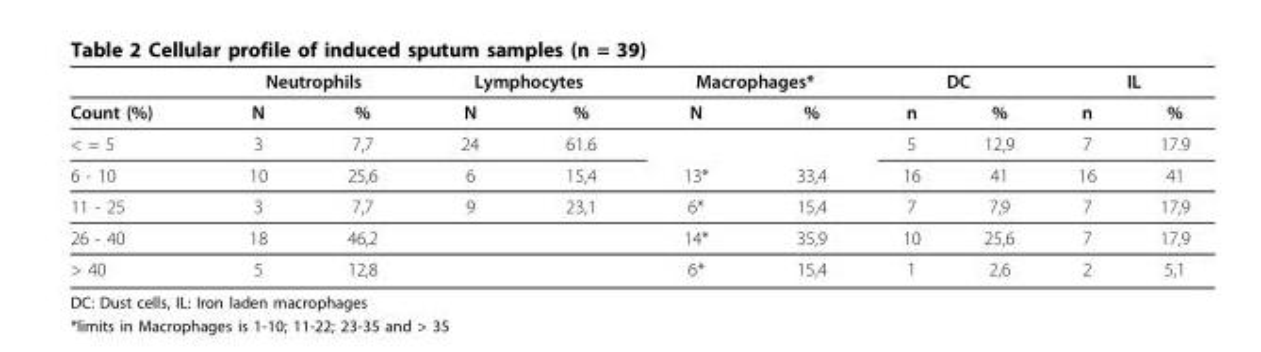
<table><thead><tr><td rowspan="2">Count (%)</td><td colspan="2">Neutrophils</td><td colspan="2">Lymphocytes</td><td colspan="2">Macrophages*</td><td colspan="2">DC</td><td colspan="2">IL</td></tr><tr><td>N</td><td>%</td><td>N</td><td>%</td><td>N</td><td>%</td><td>n</td><td>%</td><td>n</td><td>%</td></tr></thead><tbody><tr><td>&lt; = 5</td><td>3</td><td>7,7</td><td>24</td><td>61.6</td><td></td><td></td><td>5</td><td>12,9</td><td>7</td><td>17.9</td></tr><tr><td>6 - 10</td><td>10</td><td>25,6</td><td>6</td><td>15,4</td><td>13*</td><td>33,4</td><td>16</td><td>41</td><td>16</td><td>41</td></tr><tr><td>11 - 25</td><td>3</td><td>7,7</td><td>9</td><td>23,1</td><td>6*</td><td>15,4</td><td>7</td><td>7,9</td><td>7</td><td>17,9</td></tr><tr><td>26 - 40</td><td>18</td><td>46,2</td><td></td><td></td><td>14*</td><td>35,9</td><td>10</td><td>25,6</td><td>7</td><td>17,9</td></tr><tr><td>&gt; 40</td><td>5</td><td>12,8</td><td></td><td></td><td>6*</td><td>15,4</td><td>1</td><td>2,6</td><td>2</td><td>5,1</td></tr></tbody></table>